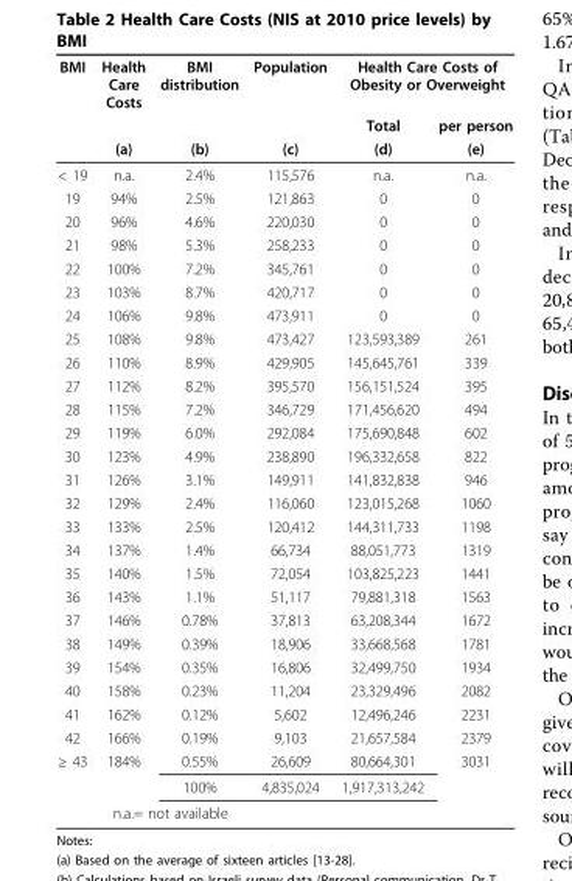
<table><thead><tr><td rowspan="3">BMI</td><td rowspan="3">Health Care Costs (a)</td><td rowspan="3">BMI distribution (b)</td><td rowspan="3">Population (c)</td><td colspan="2">Health Care Costs of Obesity or Overweight</td></tr><tr><td rowspan="2">Total (d)</td><td rowspan="2">per person (e)</td></tr><tr></tr></thead><tbody><tr><td>&lt; 19</td><td>n.a.</td><td>2.4%</td><td>115,576</td><td>n.a.</td><td>n.a.</td></tr><tr><td>19</td><td>94%</td><td>2.5%</td><td>121,863</td><td>0</td><td>0</td></tr><tr><td>20</td><td>96%</td><td>4.6%</td><td>220,030</td><td>0</td><td>0</td></tr><tr><td>21</td><td>98%</td><td>5.3%</td><td>258,233</td><td>0</td><td>0</td></tr><tr><td>22</td><td>100%</td><td>7.2%</td><td>345,761</td><td>0</td><td>0</td></tr><tr><td>23</td><td>103%</td><td>8.7%</td><td>420,717</td><td>0</td><td>0</td></tr><tr><td>24</td><td>106%</td><td>9.8%</td><td>473,911</td><td>0</td><td>0</td></tr><tr><td>25</td><td>108%</td><td>9.8%</td><td>473,427</td><td>123,593,389</td><td>261</td></tr><tr><td>26</td><td>110%</td><td>8.9%</td><td>429,905</td><td>145,645,761</td><td>339</td></tr><tr><td>27</td><td>112%</td><td>8.2%</td><td>395,570</td><td>156,151,524</td><td>395</td></tr><tr><td>28</td><td>115%</td><td>7.2%</td><td>346,729</td><td>171,456,620</td><td>494</td></tr><tr><td>29</td><td>119%</td><td>6.0%</td><td>292,084</td><td>175,690,848</td><td>602</td></tr><tr><td>30</td><td>123%</td><td>4.9%</td><td>238,890</td><td>196,332,658</td><td>822</td></tr><tr><td>31</td><td>126%</td><td>3.1%</td><td>149,911</td><td>141,832,838</td><td>946</td></tr><tr><td>32</td><td>129%</td><td>2.4%</td><td>116,060</td><td>123,015,268</td><td>1060</td></tr><tr><td>33</td><td>133%</td><td>2.5%</td><td>120,412</td><td>144,311,733</td><td>1198</td></tr><tr><td>34</td><td>137%</td><td>1.4%</td><td>66,734</td><td>88,051,773</td><td>1319</td></tr><tr><td>35</td><td>140%</td><td>1.5%</td><td>72,054</td><td>103,825,223</td><td>1441</td></tr><tr><td>36</td><td>143%</td><td>1.1%</td><td>51,117</td><td>79,881,318</td><td>1563</td></tr><tr><td>37</td><td>146%</td><td>0.78%</td><td>37,813</td><td>63,208,344</td><td>1672</td></tr><tr><td>38</td><td>149%</td><td>0.39%</td><td>18,906</td><td>33,668,568</td><td>1781</td></tr><tr><td>39</td><td>154%</td><td>0.35%</td><td>16,806</td><td>32,499,750</td><td>1934</td></tr><tr><td>40</td><td>158%</td><td>0.23%</td><td>11,204</td><td>23,329,496</td><td>2082</td></tr><tr><td>41</td><td>162%</td><td>0.12%</td><td>5,602</td><td>12,496,246</td><td>2231</td></tr><tr><td>42</td><td>166%</td><td>0.19%</td><td>9,103</td><td>21,657,584</td><td>2379</td></tr><tr><td rowspan="3">≥ 43</td><td>184%</td><td>0.55%</td><td>26,609</td><td>80,664,301</td><td>3031</td></tr><tr><td></td><td>100%</td><td>4,835,024</td><td>1,917,313,242</td><td></td></tr><tr><td colspan="2">n.a.= not available</td><td></td><td></td><td></td></tr></tbody></table>